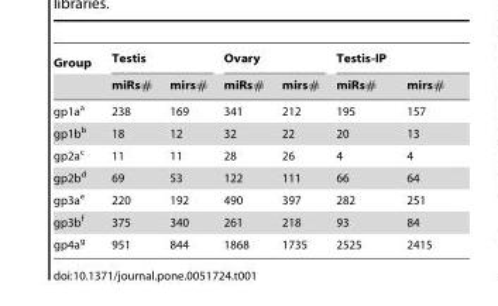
<table><thead><tr><td rowspan="2">Group</td><td colspan="2">Testis</td><td colspan="2">Ovary</td><td colspan="2">Testis-IP</td></tr><tr><td>miRs#</td><td>mirs#</td><td>miRs#</td><td>mirs#</td><td>miRs#</td><td>mirs#</td></tr></thead><tbody><tr><td>gp1a<sup>a</sup></td><td>238</td><td>169</td><td>341</td><td>212</td><td>195</td><td>157</td></tr><tr><td>gp1b<sup>b</sup></td><td>18</td><td>12</td><td>32</td><td>22</td><td>20</td><td>13</td></tr><tr><td>gp2a<sup>c</sup></td><td>11</td><td>11</td><td>28</td><td>26</td><td>4</td><td>4</td></tr><tr><td>gp2b<sup>d</sup></td><td>69</td><td>53</td><td>122</td><td>111</td><td>66</td><td>64</td></tr><tr><td>gp3a<sup>e</sup></td><td>220</td><td>192</td><td>490</td><td>397</td><td>282</td><td>251</td></tr><tr><td>gp3b<sup>f</sup></td><td>375</td><td>340</td><td>261</td><td>218</td><td>93</td><td>84</td></tr><tr><td>gp4a<sup>g</sup></td><td>951</td><td>844</td><td>1868</td><td>1735</td><td>2525</td><td>2415</td></tr></tbody></table>